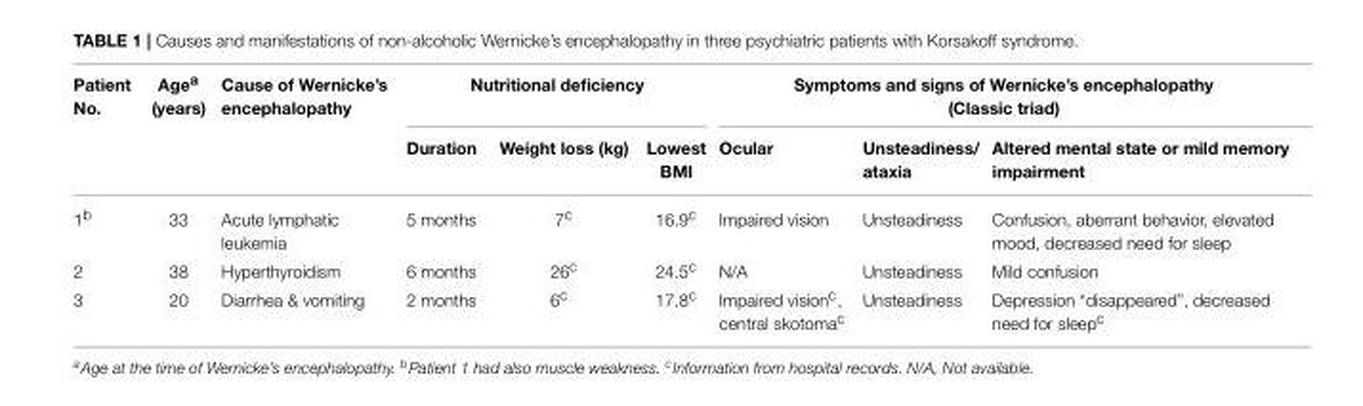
<table><thead><tr><td rowspan="2">Patient No.</td><td rowspan="2">Age<sup>a</sup> (years)</td><td rowspan="2">Cause of Wernicke’s encephalopathy</td><td colspan="3">Nutritional deficiency</td><td colspan="3">Symptoms and signs of Wernicke’s encephalopathy (Classic triad)</td></tr><tr><td>Duration</td><td>Weight loss (kg)</td><td>Lowest BMI</td><td>Ocular</td><td>Unsteadiness/ ataxia</td><td>Altered mental state or mild memory impairment</td></tr></thead><tbody><tr><td>1<sup>b</sup></td><td>33</td><td>Acute lymphatic leukemia</td><td>5 months</td><td>7<sup>c</sup></td><td>16.9<sup>c</sup></td><td>Impaired vision</td><td>Unsteadiness</td><td>Confusion, aberrant behavior, elevated mood, decreased need for sleep</td></tr><tr><td>2</td><td>38</td><td>Hyperthyroidism</td><td>6 months</td><td>26<sup>c</sup></td><td>24.5<sup>c</sup></td><td>N/A</td><td>Unsteadiness</td><td>Mild confusion</td></tr><tr><td>3</td><td>20</td><td>Diarrhea &amp; vomiting</td><td>2 months</td><td>6<sup>c</sup></td><td>17.8<sup>c</sup></td><td>Impaired vision<sup>c</sup>, central skotoma<sup>c</sup></td><td>Unsteadiness</td><td>Depression “disappeared”, decreased need for sleep<sup>c</sup></td></tr></tbody></table>